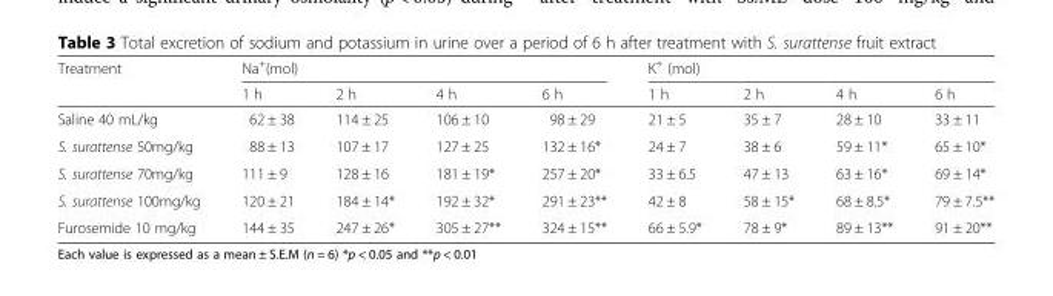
<table><thead><tr><td rowspan="2">Treatment</td><td colspan="4">Na<sup>+</sup>(mol)</td><td colspan="4">K<sup>+</sup> (mol)</td></tr><tr><td>1 h</td><td>2 h</td><td>4 h</td><td>6 h</td><td>1 h</td><td>2 h</td><td>4 h</td><td>6 h</td></tr></thead><tbody><tr><td>Saline 40 mL/kg</td><td>62 ± 38</td><td>114 ± 25</td><td>106 ± 10</td><td>98 ± 29</td><td>21 ± 5</td><td>35 ± 7</td><td>28 ± 10</td><td>33 ± 11</td></tr><tr><td>S. surattense 50mg/kg</td><td>88 ± 13</td><td>107 ± 17</td><td>127 ± 25</td><td>132 ± 16*</td><td>24 ± 7</td><td>38 ± 6</td><td>59 ± 11*</td><td>65 ± 10*</td></tr><tr><td>S. surattense 70mg/kg</td><td>111 ± 9</td><td>128 ± 16</td><td>181 ± 19*</td><td>257 ± 20*</td><td>33 ± 6.5</td><td>47 ± 13</td><td>63 ± 16*</td><td>69 ± 14*</td></tr><tr><td>S. surattense 100mg/kg</td><td>120 ± 21</td><td>184 ± 14*</td><td>192 ± 32*</td><td>291 ± 23**</td><td>42 ± 8</td><td>58 ± 15*</td><td>68 ± 8.5*</td><td>79 ± 7.5**</td></tr><tr><td>Furosemide 10 mg/kg</td><td>144 ± 35</td><td>247 ± 26*</td><td>305 ± 27**</td><td>324 ± 15**</td><td>66 ± 5.9*</td><td>78 ± 9*</td><td>89 ± 13**</td><td>91 ± 20**</td></tr></tbody></table>